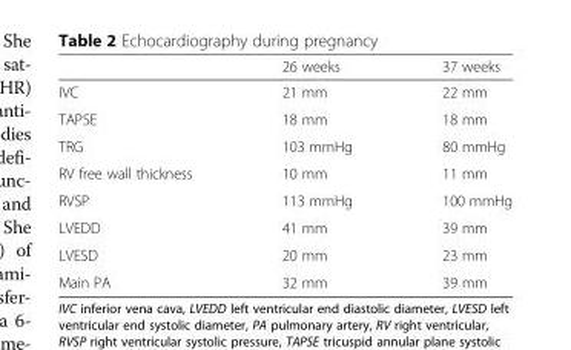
<table><thead><tr><td></td><td>26 weeks</td><td>37 weeks</td></tr></thead><tbody><tr><td>IVC</td><td>21 mm</td><td>22 mm</td></tr><tr><td>TAPSE</td><td>18 mm</td><td>18 mm</td></tr><tr><td>TRG</td><td>103 mmHg</td><td>80 mmHg</td></tr><tr><td>RV free wall thickness</td><td>10 mm</td><td>11 mm</td></tr><tr><td>RVSP</td><td>113 mmHg</td><td>100 mmHg</td></tr><tr><td>LVEDD</td><td>41 mm</td><td>39 mm</td></tr><tr><td>LVESD</td><td>20 mm</td><td>23 mm</td></tr><tr><td>Main PA</td><td>32 mm</td><td>39 mm</td></tr></tbody></table>